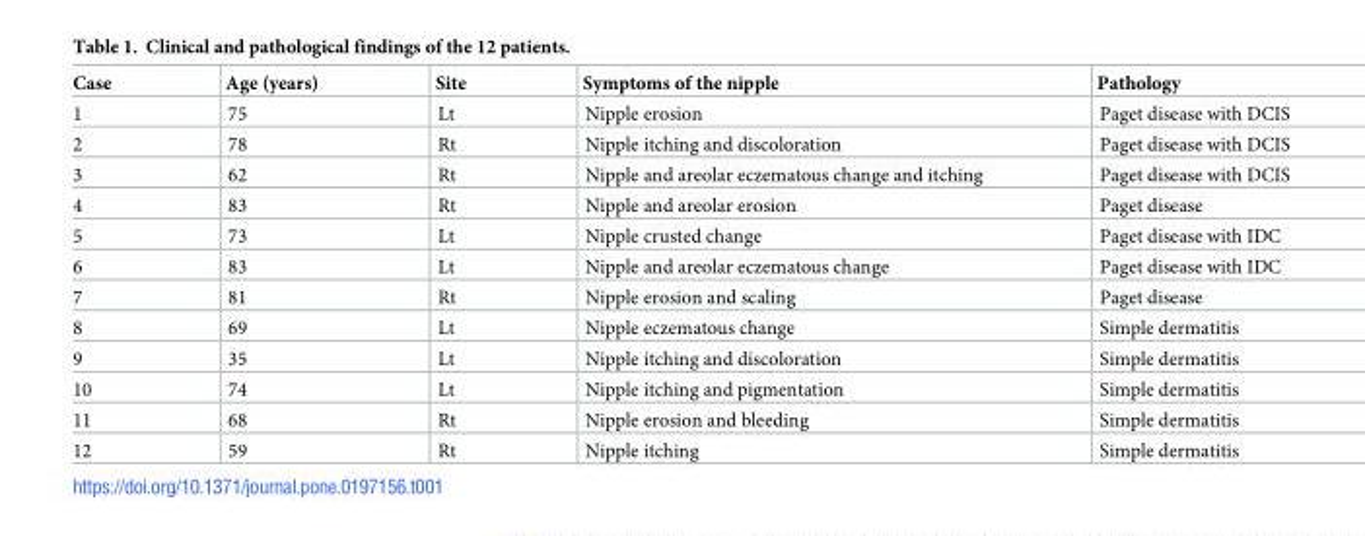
<table><thead><tr><td>Case</td><td>Age (years)</td><td>Site</td><td>Symptoms of the nipple</td><td>Pathology</td></tr></thead><tbody><tr><td>1</td><td>75</td><td>Lt</td><td>Nipple erosion</td><td>Paget disease with DCIS</td></tr><tr><td>2</td><td>78</td><td>Rt</td><td>Nipple itching and discoloration</td><td>Paget disease with DCIS</td></tr><tr><td>3</td><td>62</td><td>Rt</td><td>Nipple and areolar eczematous change and itching</td><td>Paget disease with DCIS</td></tr><tr><td>4</td><td>83</td><td>Rt</td><td>Nipple and areolar erosion</td><td>Paget disease</td></tr><tr><td>5</td><td>73</td><td>Lt</td><td>Nipple crusted change</td><td>Paget disease with IDC</td></tr><tr><td>6</td><td>83</td><td>Lt</td><td>Nipple and areolar eczematous change</td><td>Paget disease with IDC</td></tr><tr><td>7</td><td>81</td><td>Rt</td><td>Nipple erosion and scaling</td><td>Paget disease</td></tr><tr><td>8</td><td>69</td><td>Lt</td><td>Nipple eczematous change</td><td>Simple dermatitis</td></tr><tr><td>9</td><td>35</td><td>Lt</td><td>Nipple itching and discoloration</td><td>Simple dermatitis</td></tr><tr><td>10</td><td>74</td><td>Lt</td><td>Nipple itching and pigmentation</td><td>Simple dermatitis</td></tr><tr><td>11</td><td>68</td><td>Rt</td><td>Nipple erosion and bleeding</td><td>Simple dermatitis</td></tr><tr><td>12</td><td>59</td><td>Rt</td><td>Nipple itching</td><td>Simple dermatitis</td></tr></tbody></table>